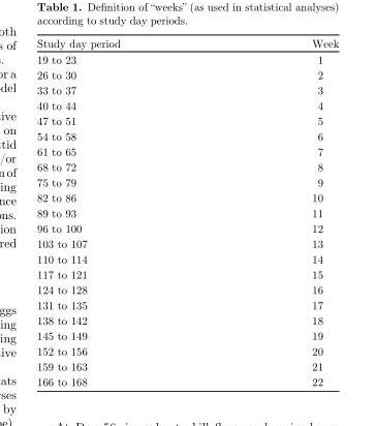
<table><thead><tr><td>Study day period</td><td>Week</td></tr></thead><tbody><tr><td>19 to 23</td><td>1</td></tr><tr><td>26 to 30</td><td>2</td></tr><tr><td>33 to 37</td><td>3</td></tr><tr><td>40 to 44</td><td>4</td></tr><tr><td>47 to 51</td><td>5</td></tr><tr><td>54 to 58</td><td>6</td></tr><tr><td>61 to 65</td><td>7</td></tr><tr><td>68 to 72</td><td>8</td></tr><tr><td>75 to 79</td><td>9</td></tr><tr><td>82 to 86</td><td>10</td></tr><tr><td>89 to 93</td><td>11</td></tr><tr><td>96 to 100</td><td>12</td></tr><tr><td>103 to 107</td><td>13</td></tr><tr><td>110 to 114</td><td>14</td></tr><tr><td>117 to 121</td><td>15</td></tr><tr><td>124 to 128</td><td>16</td></tr><tr><td>131 to 135</td><td>17</td></tr><tr><td>138 to 142</td><td>18</td></tr><tr><td>145 to 149</td><td>19</td></tr><tr><td>152 to 156</td><td>20</td></tr><tr><td>159 to 163</td><td>21</td></tr><tr><td>166 to 168</td><td>22</td></tr></tbody></table>